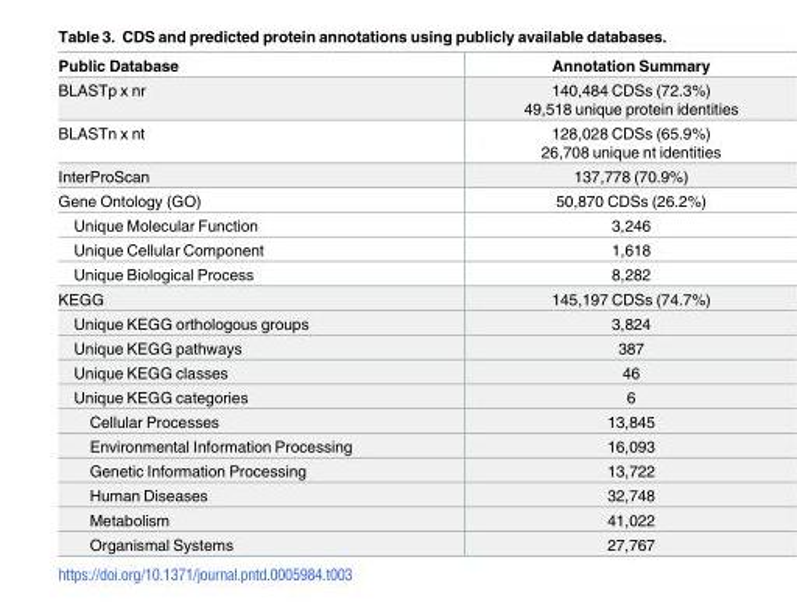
<table><thead><tr><td>Public Database</td><td>Annotation Summary</td></tr></thead><tbody><tr><td>BLASTp x nr</td><td>140,484 CDSs (72.3%) 49,518 unique protein identities</td></tr><tr><td>BLASTn x nt</td><td>128,028 CDSs (65.9%) 26,708 unique nt identities</td></tr><tr><td>InterProScan</td><td>137,778 (70.9%)</td></tr><tr><td>Gene Ontology (GO)</td><td>50,870 CDSs (26.2%)</td></tr><tr><td>Unique Molecular Function</td><td>3,246</td></tr><tr><td>Unique Cellular Component</td><td>1,618</td></tr><tr><td>Unique Biological Process</td><td>8,282</td></tr><tr><td>KEGG</td><td>145,197 CDSs (74.7%)</td></tr><tr><td>Unique KEGG orthologous groups</td><td>3,824</td></tr><tr><td>Unique KEGG pathways</td><td>387</td></tr><tr><td>Unique KEGG classes</td><td>46</td></tr><tr><td>Unique KEGG categories</td><td>6</td></tr><tr><td>Cellular Processes</td><td>13,845</td></tr><tr><td>Environmental Information Processing</td><td>16,093</td></tr><tr><td>Genetic Information Processing</td><td>13,722</td></tr><tr><td>Human Diseases</td><td>32,748</td></tr><tr><td>Metabolism</td><td>41,022</td></tr><tr><td>Organismal Systems</td><td>27,767</td></tr></tbody></table>